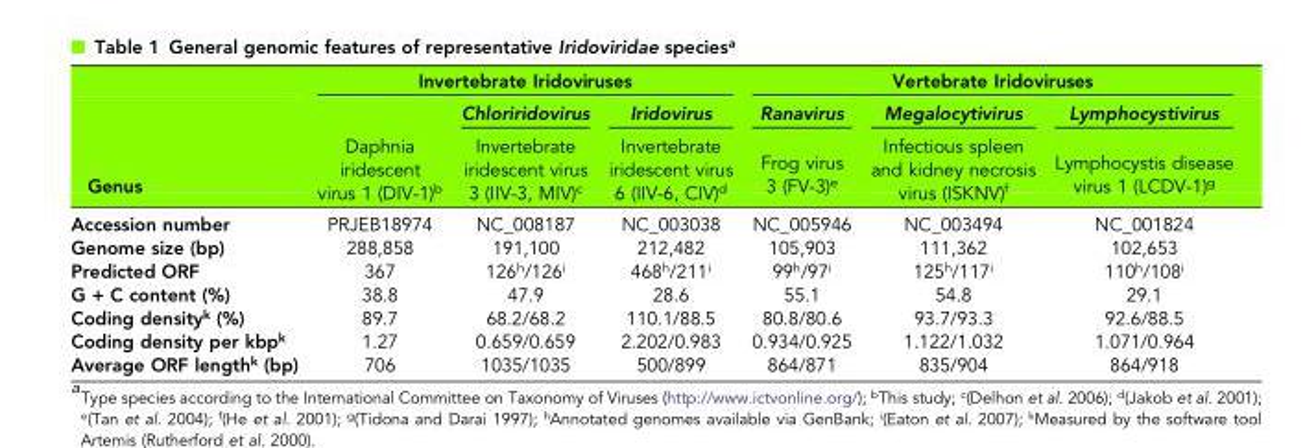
<table><thead><tr><td rowspan="3">Genus</td><td colspan="3">Invertebrate Iridoviruses</td><td colspan="3">Vertebrate Iridoviruses</td></tr><tr><td rowspan="2">Daphnia iridescent virus 1 (DIV-1)<sup>b</sup></td><td rowspan="2">Chloriridovirus Invertebrate iridescent virus 3 (IIV-3, MIV)<sup>c</sup></td><td rowspan="2">Iridovirus Invertebrate iridescent virus 6 (IIV-6, CIV)<sup>d</sup></td><td rowspan="2">Ranavirus Frog virus 3 (FV-3)<sup>e</sup></td><td rowspan="2">Megalocytivirus Infectious spleen and kidney necrosis virus (ISKNV)<sup>f</sup></td><td rowspan="2">Lymphocystivirus Lymphocystis disease virus 1 (LCDV-1)<sup>g</sup></td></tr><tr></tr></thead><tbody><tr><td>Accession number</td><td>PRJEB18974</td><td>NC_008187</td><td>NC_003038</td><td>NC_005946</td><td>NC_003494</td><td>NC_001824</td></tr><tr><td>Genome size (bp)</td><td>288,858</td><td>191,100</td><td>212,482</td><td>105,903</td><td>111,362</td><td>102,653</td></tr><tr><td>Predicted ORF</td><td>367</td><td>126<sup>h</sup>/126<sup>i</sup></td><td>468<sup>h</sup>/211<sup>i</sup></td><td>99<sup>h</sup>/97<sup>i</sup></td><td>125<sup>h</sup>/117<sup>i</sup></td><td>110<sup>h</sup>/108<sup>i</sup></td></tr><tr><td>G + C content (%)</td><td>38.8</td><td>47.9</td><td>28.6</td><td>55.1</td><td>54.8</td><td>29.1</td></tr><tr><td>Coding density<sup>k</sup> (%)</td><td>89.7</td><td>68.2/68.2</td><td>110.1/88.5</td><td>80.8/80.6</td><td>93.7/93.3</td><td>92.6/88.5</td></tr><tr><td>Coding density per kbp<sup>k</sup></td><td>1.27</td><td>0.659/0.659</td><td>2.202/0.983</td><td>0.934/0.925</td><td>1.122/1.032</td><td>1.071/0.964</td></tr><tr><td>Average ORF length<sup>k</sup> (bp)</td><td>706</td><td>1035/1035</td><td>500/899</td><td>864/871</td><td>835/904</td><td>864/918</td></tr></tbody></table>